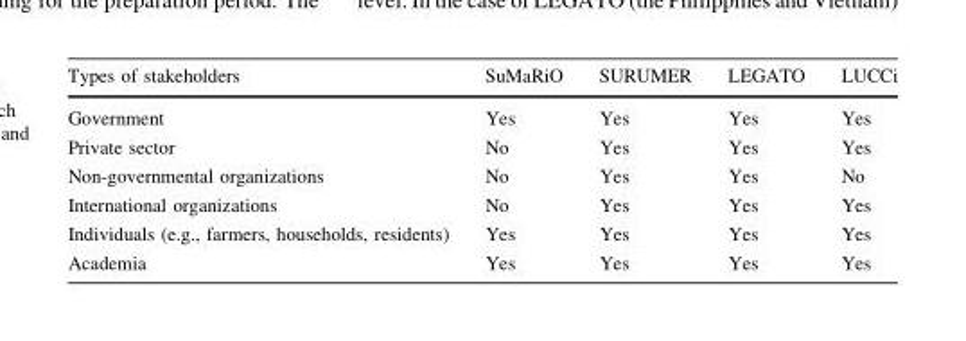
<table><thead><tr><td>Types of stakeholders</td><td>SuMaRiO</td><td>SURUMER</td><td>LEGATO</td><td>LUCCi</td></tr></thead><tbody><tr><td>Government</td><td>Yes</td><td>Yes</td><td>Yes</td><td>Yes</td></tr><tr><td>Private sector</td><td>No</td><td>Yes</td><td>Yes</td><td>Yes</td></tr><tr><td>Non-governmental organizations</td><td>No</td><td>Yes</td><td>Yes</td><td>No</td></tr><tr><td>International organizations</td><td>No</td><td>Yes</td><td>Yes</td><td>Yes</td></tr><tr><td>Individuals (e.g., farmers, households, residents)</td><td>Yes</td><td>Yes</td><td>Yes</td><td>Yes</td></tr><tr><td>Academia</td><td>Yes</td><td>Yes</td><td>Yes</td><td>Yes</td></tr></tbody></table>